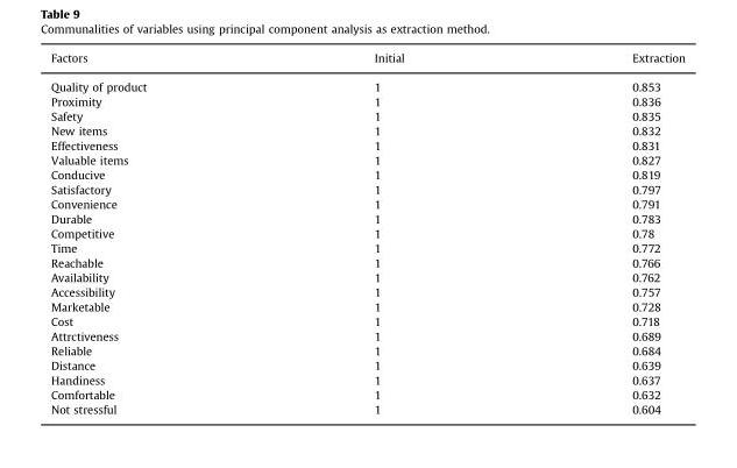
<table><thead><tr><td>Factors</td><td>Initial</td><td>Extraction</td></tr></thead><tbody><tr><td>Quality of product</td><td>1</td><td>0.853</td></tr><tr><td>Proximity</td><td>1</td><td>0.836</td></tr><tr><td>Safety</td><td>1</td><td>0.835</td></tr><tr><td>New items</td><td>1</td><td>0.832</td></tr><tr><td>Effectiveness</td><td>1</td><td>0.831</td></tr><tr><td>Valuable items</td><td>1</td><td>0.827</td></tr><tr><td>Conducive</td><td>1</td><td>0.819</td></tr><tr><td>Satisfactory</td><td>1</td><td>0.797</td></tr><tr><td>Convenience</td><td>1</td><td>0.791</td></tr><tr><td>Durable</td><td>1</td><td>0.783</td></tr><tr><td>Competitive</td><td>1</td><td>0.78</td></tr><tr><td>Time</td><td>1</td><td>0.772</td></tr><tr><td>Reachable</td><td>1</td><td>0.766</td></tr><tr><td>Availability</td><td>1</td><td>0.762</td></tr><tr><td>Accessibility</td><td>1</td><td>0.757</td></tr><tr><td>Marketable</td><td>1</td><td>0.728</td></tr><tr><td>Cost</td><td>1</td><td>0.718</td></tr><tr><td>Attrctiveness</td><td>1</td><td>0.689</td></tr><tr><td>Reliable</td><td>1</td><td>0.684</td></tr><tr><td>Distance</td><td>1</td><td>0.639</td></tr><tr><td>Handiness</td><td>1</td><td>0.637</td></tr><tr><td>Comfortable</td><td>1</td><td>0.632</td></tr><tr><td>Not stressful</td><td>1</td><td>0.604</td></tr></tbody></table>